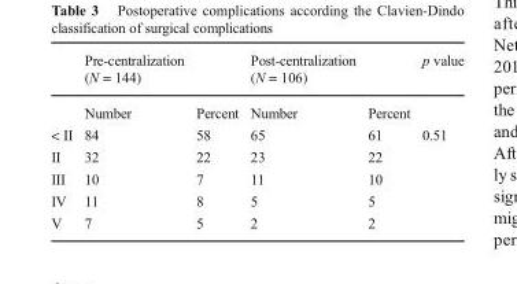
<table><thead><tr><td></td><td>Pre-centralization (N = 144)</td><td></td><td>Post-centralization (N = 106)</td><td></td><td>p value</td></tr></thead><tbody><tr><td></td><td>Number</td><td>Percent</td><td>Number</td><td>Percent</td><td></td></tr><tr><td>&lt; II</td><td>84</td><td>58</td><td>65</td><td>61</td><td>0.51</td></tr><tr><td>II</td><td>32</td><td>22</td><td>23</td><td>22</td><td></td></tr><tr><td>III</td><td>10</td><td>7</td><td>11</td><td>10</td><td></td></tr><tr><td>IV</td><td>11</td><td>8</td><td>5</td><td>5</td><td></td></tr><tr><td>V</td><td>7</td><td>5</td><td>2</td><td>2</td><td></td></tr></tbody></table>